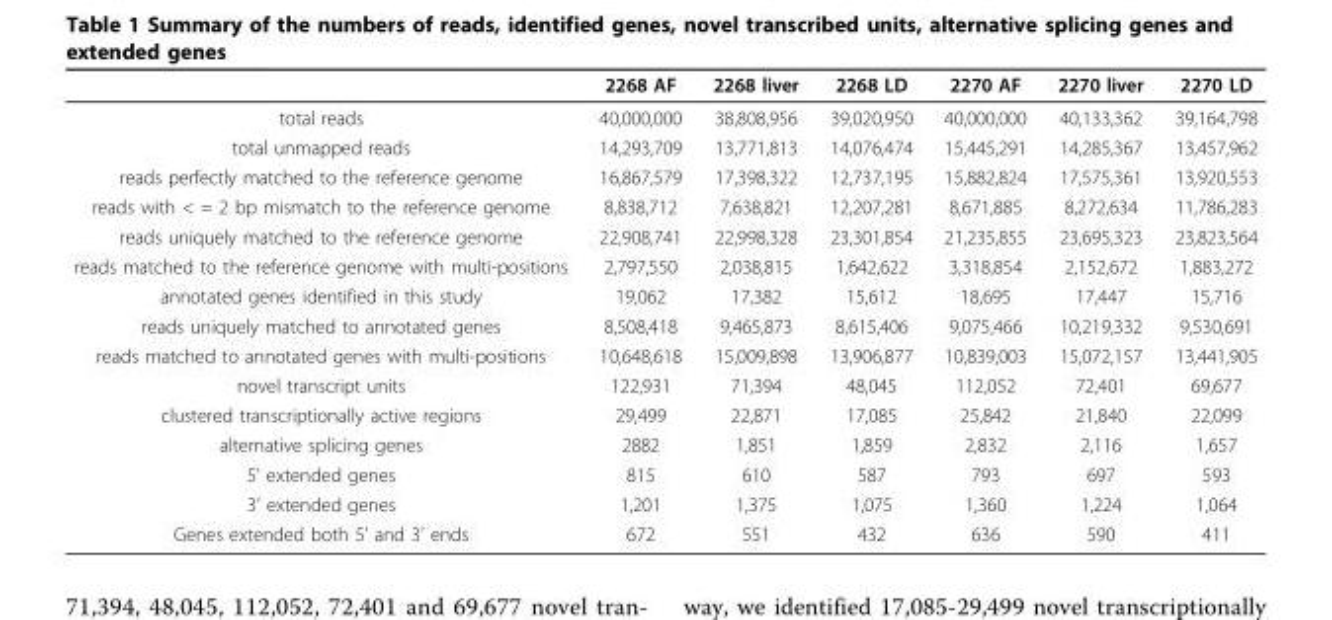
<table><thead><tr><td></td><td>2268 AF</td><td>2268 liver</td><td>2268 LD</td><td>2270 AF</td><td>2270 liver</td><td>2270 LD</td></tr></thead><tbody><tr><td>total reads</td><td>40,000,000</td><td>38,808,956</td><td>39,020,950</td><td>40,000,000</td><td>40,133,362</td><td>39,164,798</td></tr><tr><td>total unmapped reads</td><td>14,293,709</td><td>13,771,813</td><td>14,076,474</td><td>15,445,291</td><td>14,285,367</td><td>13,457,962</td></tr><tr><td>reads perfectly matched to the reference genome</td><td>16,867,579</td><td>17,398,322</td><td>12,737,195</td><td>15,882,824</td><td>17,575,361</td><td>13,920,553</td></tr><tr><td>reads with &lt; = 2 bp mismatch to the reference genome</td><td>8,838,712</td><td>7,638,821</td><td>12,207,281</td><td>8,671,885</td><td>8,272,634</td><td>11,786,283</td></tr><tr><td>reads uniquely matched to the reference genome</td><td>22,908,741</td><td>22,998,328</td><td>23,301,854</td><td>21,235,855</td><td>23,695,323</td><td>23,823,564</td></tr><tr><td>reads matched to the reference genome with multi-positions</td><td>2,797,550</td><td>2,038,815</td><td>1,642,622</td><td>3,318,854</td><td>2,152,672</td><td>1,883,272</td></tr><tr><td>annotated genes identified in this study</td><td>19,062</td><td>17,382</td><td>15,612</td><td>18,695</td><td>17,447</td><td>15,716</td></tr><tr><td>reads uniquely matched to annotated genes</td><td>8,508,418</td><td>9,465,873</td><td>8,615,406</td><td>9,075,466</td><td>10,219,332</td><td>9,530,691</td></tr><tr><td>reads matched to annotated genes with multi-positions</td><td>10,648,618</td><td>15,009,898</td><td>13,906,877</td><td>10,839,003</td><td>15,072,157</td><td>13,441,905</td></tr><tr><td>novel transcript units</td><td>122,931</td><td>71,394</td><td>48,045</td><td>112,052</td><td>72,401</td><td>69,677</td></tr><tr><td>clustered transcriptionally active regions</td><td>29,499</td><td>22,871</td><td>17,085</td><td>25,842</td><td>21,840</td><td>22,099</td></tr><tr><td>alternative splicing genes</td><td>2882</td><td>1,851</td><td>1,859</td><td>2,832</td><td>2,116</td><td>1,657</td></tr><tr><td>5’ extended genes</td><td>815</td><td>610</td><td>587</td><td>793</td><td>697</td><td>593</td></tr><tr><td>3’ extended genes</td><td>1,201</td><td>1,375</td><td>1,075</td><td>1,360</td><td>1,224</td><td>1,064</td></tr><tr><td>Genes extended both 5’ and 3’ ends</td><td>672</td><td>551</td><td>432</td><td>636</td><td>590</td><td>411</td></tr></tbody></table>